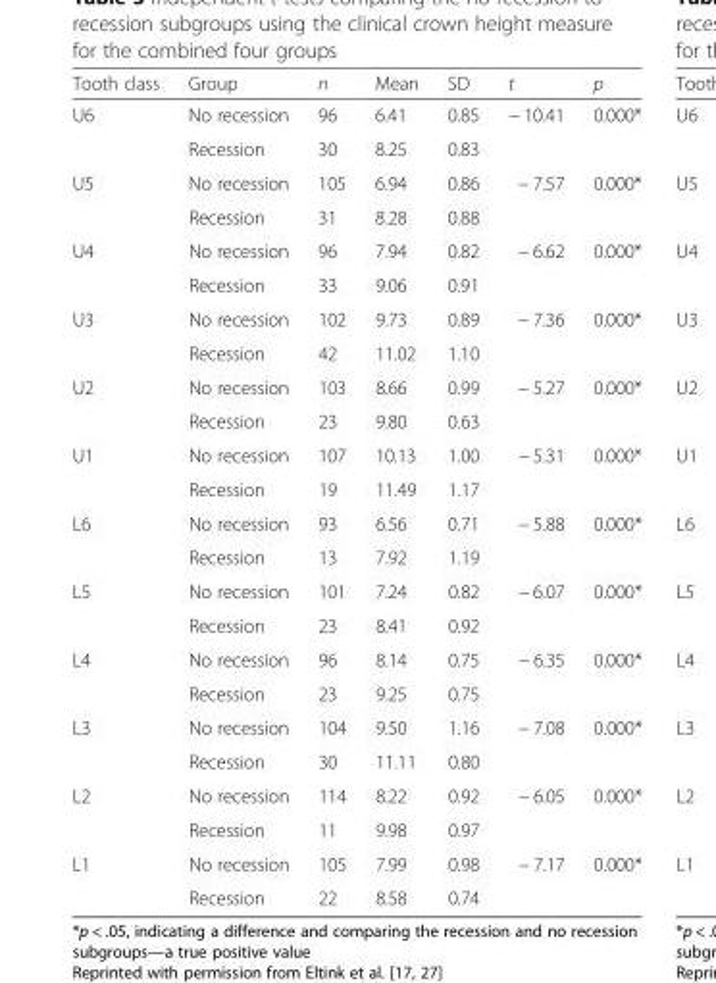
<table><thead><tr><td>Tooth class</td><td>Group</td><td>n</td><td>Mean</td><td>SD</td><td>t</td><td>p</td></tr></thead><tbody><tr><td rowspan="2">U6</td><td>No recession</td><td>96</td><td>6.41</td><td>0.85</td><td rowspan="2">− 10.41</td><td rowspan="2">0.000*</td></tr><tr><td>Recession</td><td>30</td><td>8.25</td><td>0.83</td></tr><tr><td rowspan="2">U5</td><td>No recession</td><td>105</td><td>6.94</td><td>0.86</td><td rowspan="2">− 7.57</td><td rowspan="2">0.000*</td></tr><tr><td>Recession</td><td>31</td><td>8.28</td><td>0.88</td></tr><tr><td rowspan="2">U4</td><td>No recession</td><td>96</td><td>7.94</td><td>0.82</td><td rowspan="2">− 6.62</td><td rowspan="2">0.000*</td></tr><tr><td>Recession</td><td>33</td><td>9.06</td><td>0.91</td></tr><tr><td rowspan="2">U3</td><td>No recession</td><td>102</td><td>9.73</td><td>0.89</td><td rowspan="2">− 7.36</td><td rowspan="2">0.000*</td></tr><tr><td>Recession</td><td>42</td><td>11.02</td><td>1.10</td></tr><tr><td rowspan="2">U2</td><td>No recession</td><td>103</td><td>8.66</td><td>0.99</td><td rowspan="2">− 5.27</td><td rowspan="2">0.000*</td></tr><tr><td>Recession</td><td>23</td><td>9.80</td><td>0.63</td></tr><tr><td rowspan="2">U1</td><td>No recession</td><td>107</td><td>10.13</td><td>1.00</td><td rowspan="2">− 5.31</td><td rowspan="2">0.000*</td></tr><tr><td>Recession</td><td>19</td><td>11.49</td><td>1.17</td></tr><tr><td rowspan="2">L6</td><td>No recession</td><td>93</td><td>6.56</td><td>0.71</td><td rowspan="2">− 5.88</td><td rowspan="2">0.000*</td></tr><tr><td>Recession</td><td>13</td><td>7.92</td><td>1.19</td></tr><tr><td rowspan="2">L5</td><td>No recession</td><td>101</td><td>7.24</td><td>0.82</td><td rowspan="2">− 6.07</td><td rowspan="2">0.000*</td></tr><tr><td>Recession</td><td>23</td><td>8.41</td><td>0.92</td></tr><tr><td rowspan="2">L4</td><td>No recession</td><td>96</td><td>8.14</td><td>0.75</td><td rowspan="2">− 6.35</td><td rowspan="2">0.000*</td></tr><tr><td>Recession</td><td>23</td><td>9.25</td><td>0.75</td></tr><tr><td rowspan="2">L3</td><td>No recession</td><td>104</td><td>9.50</td><td>1.16</td><td rowspan="2">− 7.08</td><td rowspan="2">0.000*</td></tr><tr><td>Recession</td><td>30</td><td>11.11</td><td>0.80</td></tr><tr><td rowspan="2">L2</td><td>No recession</td><td>114</td><td>8.22</td><td>0.92</td><td rowspan="2">− 6.05</td><td rowspan="2">0.000*</td></tr><tr><td>Recession</td><td>11</td><td>9.98</td><td>0.97</td></tr><tr><td rowspan="2">L1</td><td>No recession</td><td>105</td><td>7.99</td><td>0.98</td><td rowspan="2">− 7.17</td><td rowspan="2">0.000*</td></tr><tr><td>Recession</td><td>22</td><td>8.58</td><td>0.74</td></tr></tbody></table>